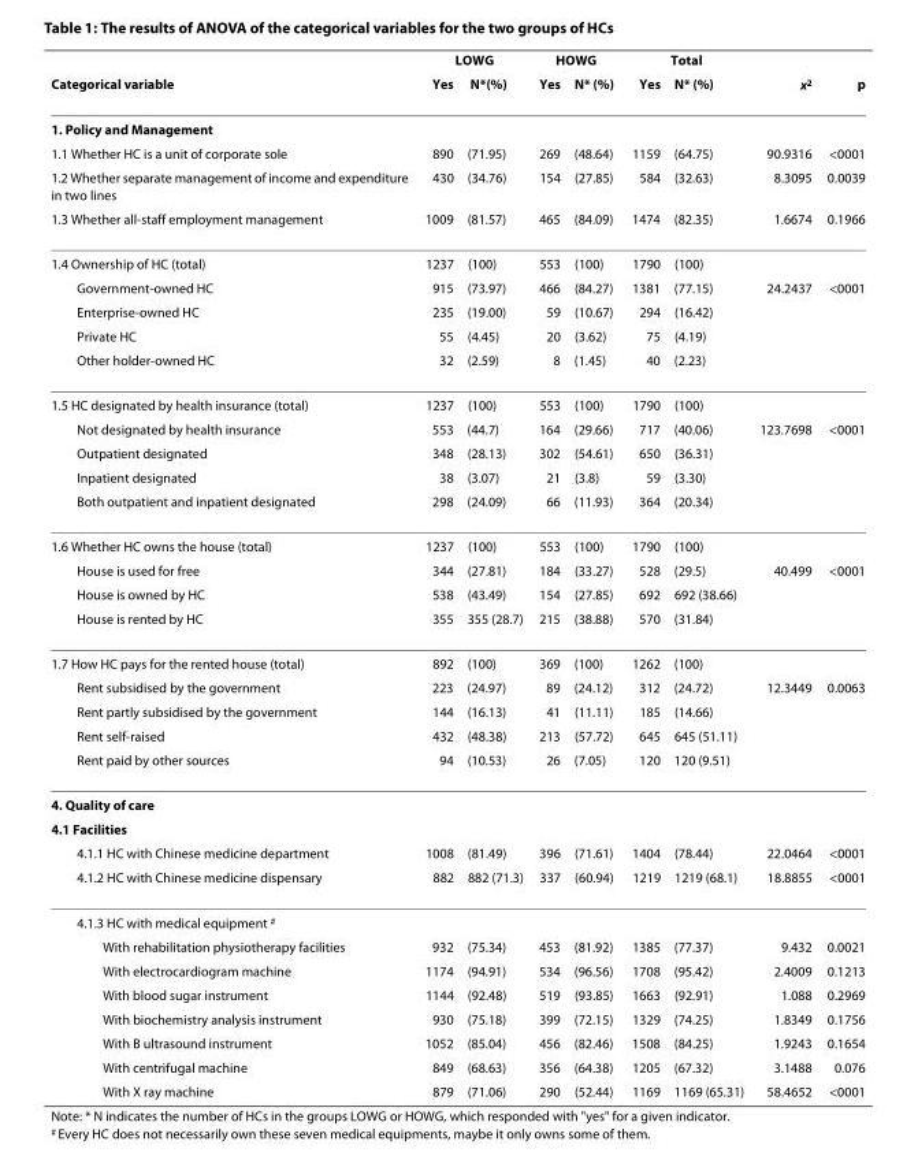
<table><thead><tr><td rowspan="2">Categorical variable</td><td colspan="2">LOWG</td><td colspan="2">HOWG</td><td colspan="2">Total</td><td rowspan="2">x<sup>2</sup></td><td rowspan="2">p</td></tr><tr><td>Yes</td><td>N*(%)</td><td>Yes</td><td>N* (%)</td><td>Yes</td><td>N* (%)</td></tr></thead><tbody><tr><td colspan="9">1. Policy and Management</td></tr><tr><td>1.1 Whether HC is a unit of corporate sole</td><td>890</td><td>(71.95)</td><td>269</td><td>(48.64)</td><td>1159</td><td>(64.75)</td><td>90.9316</td><td>&lt;0001</td></tr><tr><td>1.2 Whether separate management of income and expenditure in two lines</td><td>430</td><td>(34.76)</td><td>154</td><td>(27.85)</td><td>584</td><td>(32.63)</td><td>8.3095</td><td>0.0039</td></tr><tr><td>1.3 Whether all-staff employment management</td><td>1009</td><td>(81.57)</td><td>465</td><td>(84.09)</td><td>1474</td><td>(82.35)</td><td>1.6674</td><td>0.1966</td></tr><tr><td>1.4 Ownership of HC (total)</td><td>1237</td><td>(100)</td><td>553</td><td>(100)</td><td>1790</td><td>(100)</td><td></td><td></td></tr><tr><td>Government-owned HC</td><td>915</td><td>(73.97)</td><td>466</td><td>(84.27)</td><td>1381</td><td>(77.15)</td><td>24.2437</td><td>&lt;0001</td></tr><tr><td>Enterprise-owned HC</td><td>235</td><td>(19.00)</td><td>59</td><td>(10.67)</td><td>294</td><td>(16.42)</td><td></td><td></td></tr><tr><td>Private HC</td><td>55</td><td>(4.45)</td><td>20</td><td>(3.62)</td><td>75</td><td>(4.19)</td><td></td><td></td></tr><tr><td>Other holder-owned HC</td><td>32</td><td>(2.59)</td><td>8</td><td>(1.45)</td><td>40</td><td>(2.23)</td><td></td><td></td></tr><tr><td>1.5 HC designated by health insurance (total)</td><td>1237</td><td>(100)</td><td>553</td><td>(100)</td><td>1790</td><td>(100)</td><td></td><td></td></tr><tr><td>Not designated by health insurance</td><td>553</td><td>(44.7)</td><td>164</td><td>(29.66)</td><td>717</td><td>(40.06)</td><td>123.7698</td><td>&lt;0001</td></tr><tr><td>Outpatient designated</td><td>348</td><td>(28.13)</td><td>302</td><td>(54.61)</td><td>650</td><td>(36.31)</td><td></td><td></td></tr><tr><td>Inpatient designated</td><td>38</td><td>(3.07)</td><td>21</td><td>(3.8)</td><td>59</td><td>(3.30)</td><td></td><td></td></tr><tr><td>Both outpatient and inpatient designated</td><td>298</td><td>(24.09)</td><td>66</td><td>(11.93)</td><td>364</td><td>(20.34)</td><td></td><td></td></tr><tr><td>1.6 Whether HC owns the house (total)</td><td>1237</td><td>(100)</td><td>553</td><td>(100)</td><td>1790</td><td>(100)</td><td></td><td></td></tr><tr><td>House is used for free</td><td>344</td><td>(27.81)</td><td>184</td><td>(33.27)</td><td>528</td><td>(29.5)</td><td>40.499</td><td>&lt;0001</td></tr><tr><td>House is owned by HC</td><td>538</td><td>(43.49)</td><td>154</td><td>(27.85)</td><td>692</td><td>692 (38.66)</td><td></td><td></td></tr><tr><td>House is rented by HC</td><td>355</td><td>355 (28.7)</td><td>215</td><td>(38.88)</td><td>570</td><td>(31.84)</td><td></td><td></td></tr><tr><td>1.7 How HC pays for the rented house (total)</td><td>892</td><td>(100)</td><td>369</td><td>(100)</td><td>1262</td><td>(100)</td><td></td><td></td></tr><tr><td>Rent subsidised by the government</td><td>223</td><td>(24.97)</td><td>89</td><td>(24.12)</td><td>312</td><td>(24.72)</td><td>12.3449</td><td>0.0063</td></tr><tr><td>Rent partly subsidised by the government</td><td>144</td><td>(16.13)</td><td>41</td><td>(11.11)</td><td>185</td><td>(14.66)</td><td></td><td></td></tr><tr><td>Rent self-raised</td><td>432</td><td>(48.38)</td><td>213</td><td>(57.72)</td><td>645</td><td>645 (51.11)</td><td></td><td></td></tr><tr><td>Rent paid by other sources</td><td>94</td><td>(10.53)</td><td>26</td><td>(7.05)</td><td>120</td><td>120 (9.51)</td><td></td><td></td></tr><tr><td colspan="9">4. Quality of care</td></tr><tr><td colspan="9">4.1 Facilities</td></tr><tr><td>4.1.1 HC with Chinese medicine department</td><td>1008</td><td>(81.49)</td><td>396</td><td>(71.61)</td><td>1404</td><td>(78.44)</td><td>22.0464</td><td>&lt;0001</td></tr><tr><td>4.1.2 HC with Chinese medicine dispensary</td><td>882</td><td>882 (71.3)</td><td>337</td><td>(60.94)</td><td>1219</td><td>1219 (68.1)</td><td>18.8855</td><td>&lt;0001</td></tr><tr><td colspan="9">4.1.3 HC with medical equipment <sup>#</sup></td></tr><tr><td>With rehabilitation physiotherapy facilities</td><td>932</td><td>(75.34)</td><td>453</td><td>(81.92)</td><td>1385</td><td>(77.37)</td><td>9.432</td><td>0.0021</td></tr><tr><td>With electrocardiogram machine</td><td>1174</td><td>(94.91)</td><td>534</td><td>(96.56)</td><td>1708</td><td>(95.42)</td><td>2.4009</td><td>0.1213</td></tr><tr><td>With blood sugar instrument</td><td>1144</td><td>(92.48)</td><td>519</td><td>(93.85)</td><td>1663</td><td>(92.91)</td><td>1.088</td><td>0.2969</td></tr><tr><td>With biochemistry analysis instrument</td><td>930</td><td>(75.18)</td><td>399</td><td>(72.15)</td><td>1329</td><td>(74.25)</td><td>1.8349</td><td>0.1756</td></tr><tr><td>With B ultrasound instrument</td><td>1052</td><td>(85.04)</td><td>456</td><td>(82.46)</td><td>1508</td><td>(84.25)</td><td>1.9243</td><td>0.1654</td></tr><tr><td>With centrifugal machine</td><td>849</td><td>(68.63)</td><td>356</td><td>(64.38)</td><td>1205</td><td>(67.32)</td><td>3.1488</td><td>0.076</td></tr><tr><td>With X ray machine</td><td>879</td><td>(71.06)</td><td>290</td><td>(52.44)</td><td>1169</td><td>1169 (65.31)</td><td>58.4652</td><td>&lt;0001</td></tr></tbody></table>